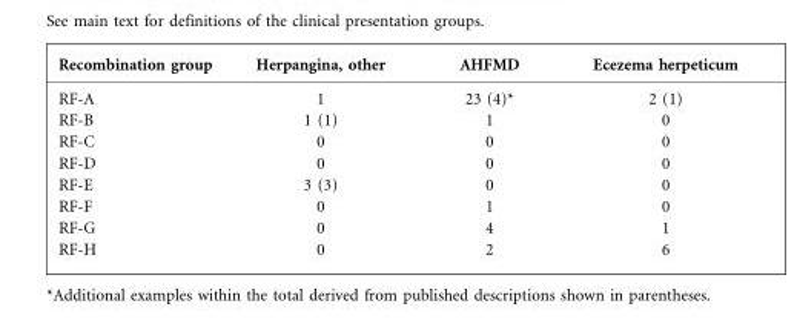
<table><thead><tr><td>Recombination group</td><td>Herpangina, other</td><td>AHFMD</td><td>Ecezema herpeticum</td></tr></thead><tbody><tr><td>RF-A</td><td>1</td><td>23 (4)*</td><td>2 (1)</td></tr><tr><td>RF-B</td><td>1 (1)</td><td>1</td><td>0</td></tr><tr><td>RF-C</td><td>0</td><td>0</td><td>0</td></tr><tr><td>RF-D</td><td>0</td><td>0</td><td>0</td></tr><tr><td>RF-E</td><td>3 (3)</td><td>0</td><td>0</td></tr><tr><td>RF-F</td><td>0</td><td>1</td><td>0</td></tr><tr><td>RF-G</td><td>0</td><td>4</td><td>1</td></tr><tr><td>RF-H</td><td>0</td><td>2</td><td>6</td></tr></tbody></table>